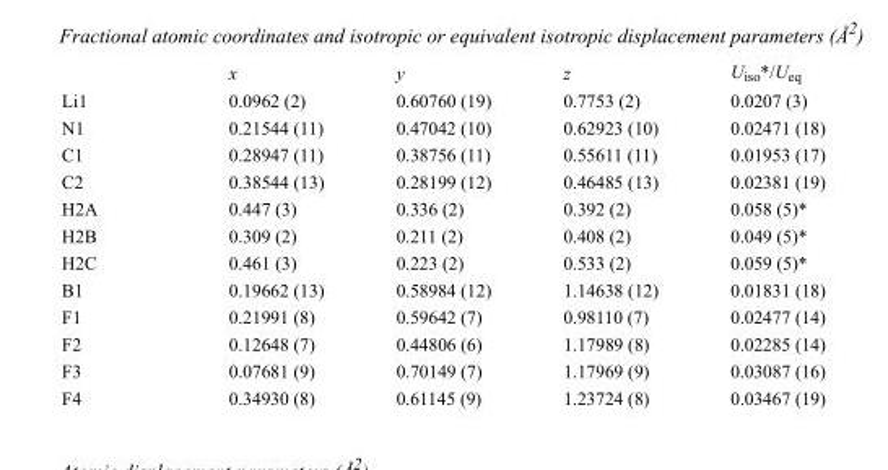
<table><thead><tr><td></td><td>x</td><td>y</td><td>z</td><td>U<sub>iso</sub>*/U<sub>eq</sub></td></tr></thead><tbody><tr><td>Li1</td><td>0.0962 (2)</td><td>0.60760 (19)</td><td>0.7753 (2)</td><td>0.0207 (3)</td></tr><tr><td>N1</td><td>0.21544 (11)</td><td>0.47042 (10)</td><td>0.62923 (10)</td><td>0.02471 (18)</td></tr><tr><td>C1</td><td>0.28947 (11)</td><td>0.38756 (11)</td><td>0.55611 (11)</td><td>0.01953 (17)</td></tr><tr><td>C2</td><td>0.38544 (13)</td><td>0.28199 (12)</td><td>0.46485 (13)</td><td>0.02381 (19)</td></tr><tr><td>H2A</td><td>0.447 (3)</td><td>0.336 (2)</td><td>0.392 (2)</td><td>0.058 (5)*</td></tr><tr><td>H2B</td><td>0.309 (2)</td><td>0.211 (2)</td><td>0.408 (2)</td><td>0.049 (5)*</td></tr><tr><td>H2C</td><td>0.461 (3)</td><td>0.223 (2)</td><td>0.533 (2)</td><td>0.059 (5)*</td></tr><tr><td>B1</td><td>0.19662 (13)</td><td>0.58984 (12)</td><td>1.14638 (12)</td><td>0.01831 (18)</td></tr><tr><td>F1</td><td>0.21991 (8)</td><td>0.59642 (7)</td><td>0.98110 (7)</td><td>0.02477 (14)</td></tr><tr><td>F2</td><td>0.12648 (7)</td><td>0.44806 (6)</td><td>1.17989 (8)</td><td>0.02285 (14)</td></tr><tr><td>F3</td><td>0.07681 (9)</td><td>0.70149 (7)</td><td>1.17969 (9)</td><td>0.03087 (16)</td></tr><tr><td>F4</td><td>0.34930 (8)</td><td>0.61145 (9)</td><td>1.23724 (8)</td><td>0.03467 (19)</td></tr></tbody></table>